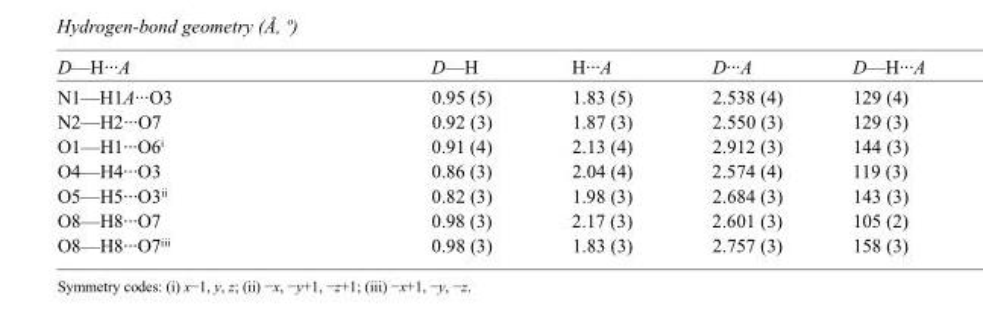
<table><tbody><tr><td>D—H···A</td><td>D—H</td><td>H···A</td><td>D···A</td><td>D—H···A</td></tr><tr><td>N1—H1A···O3</td><td>0.95 (5)</td><td>1.83 (5)</td><td>2.538 (4)</td><td>129 (4)</td></tr><tr><td>N2—H2···O7</td><td>0.92 (3)</td><td>1.87 (3)</td><td>2.550 (3)</td><td>129 (3)</td></tr><tr><td>O1—H1···O6<sup>i</sup></td><td>0.91 (4)</td><td>2.13 (4)</td><td>2.912 (3)</td><td>144 (3)</td></tr><tr><td>O4—H4···O3</td><td>0.86 (3)</td><td>2.04 (4)</td><td>2.574 (4)</td><td>119 (3)</td></tr><tr><td>O5—H5···O3<sup>ii</sup></td><td>0.82 (3)</td><td>1.98 (3)</td><td>2.684 (3)</td><td>143 (3)</td></tr><tr><td>O8—H8···O7</td><td>0.98 (3)</td><td>2.17 (3)</td><td>2.601 (3)</td><td>105 (2)</td></tr><tr><td>O8—H8···O7<sup>iii</sup></td><td>0.98 (3)</td><td>1.83 (3)</td><td>2.757 (3)</td><td>158 (3)</td></tr></tbody></table>